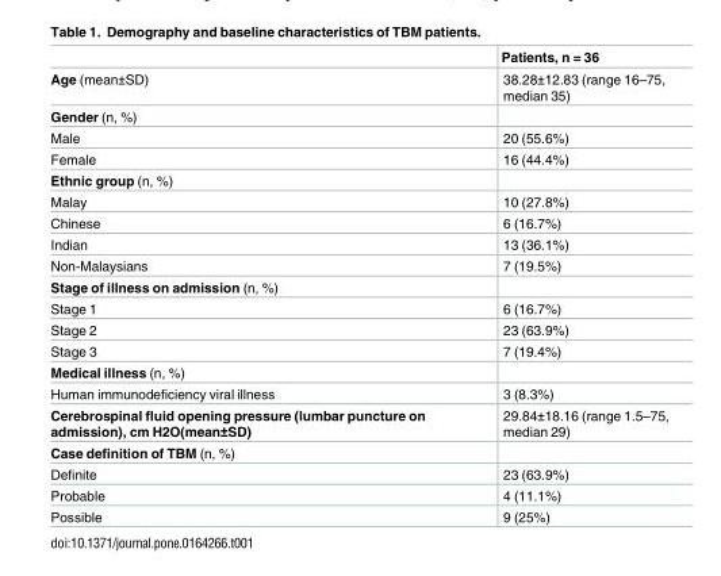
<table><thead><tr><td></td><td>Patients, n = 36</td></tr></thead><tbody><tr><td>Age (mean±SD)</td><td>38.28±12.83 (range 16–75, median 35)</td></tr><tr><td colspan="2">Gender (n, %)</td></tr><tr><td>Male</td><td>20 (55.6%)</td></tr><tr><td>Female</td><td>16 (44.4%)</td></tr><tr><td colspan="2">Ethnic group (n, %)</td></tr><tr><td>Malay</td><td>10 (27.8%)</td></tr><tr><td>Chinese</td><td>6 (16.7%)</td></tr><tr><td>Indian</td><td>13 (36.1%)</td></tr><tr><td>Non-Malaysians</td><td>7 (19.5%)</td></tr><tr><td colspan="2">Stage of illness on admission (n, %)</td></tr><tr><td>Stage 1</td><td>6 (16.7%)</td></tr><tr><td>Stage 2</td><td>23 (63.9%)</td></tr><tr><td>Stage 3</td><td>7 (19.4%)</td></tr><tr><td colspan="2">Medical illness (n, %)</td></tr><tr><td>Human immunodeficiency viral illness</td><td>3 (8.3%)</td></tr><tr><td>Cerebrospinal fluid opening pressure (lumbar puncture on admission), cm H2O(mean±SD)</td><td>29.84±18.16 (range 1.5–75, median 29)</td></tr><tr><td colspan="2">Case definition of TBM (n, %)</td></tr><tr><td>Definite</td><td>23 (63.9%)</td></tr><tr><td>Probable</td><td>4 (11.1%)</td></tr><tr><td>Possible</td><td>9 (25%)</td></tr></tbody></table>